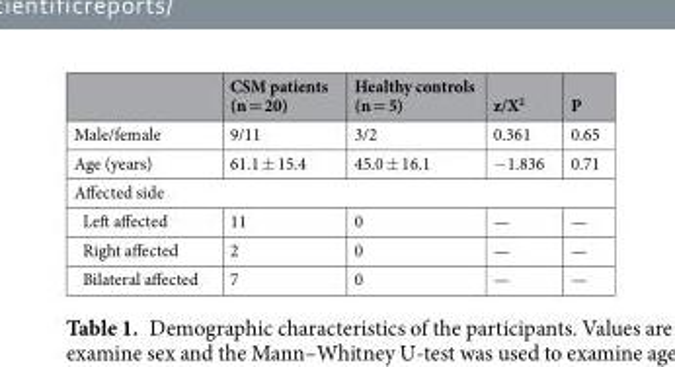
<table><thead><tr><td></td><td>CSM patients (n = 20)</td><td>Healthy controls (n = 5)</td><td>z/X<sup>2</sup></td><td>P</td></tr></thead><tbody><tr><td>Male/female</td><td>9/11</td><td>3/2</td><td>0.361</td><td>0.65</td></tr><tr><td>Age (years)</td><td>61.1 ± 15.4</td><td>45.0 ± 16.1</td><td>−1.836</td><td>0.71</td></tr><tr><td colspan="5">Affected side</td></tr><tr><td>Left affected</td><td>11</td><td>0</td><td>—</td><td>—</td></tr><tr><td>Right affected</td><td>2</td><td>0</td><td>—</td><td>—</td></tr><tr><td>Bilateral affected</td><td>7</td><td>0</td><td>—</td><td>—</td></tr></tbody></table>